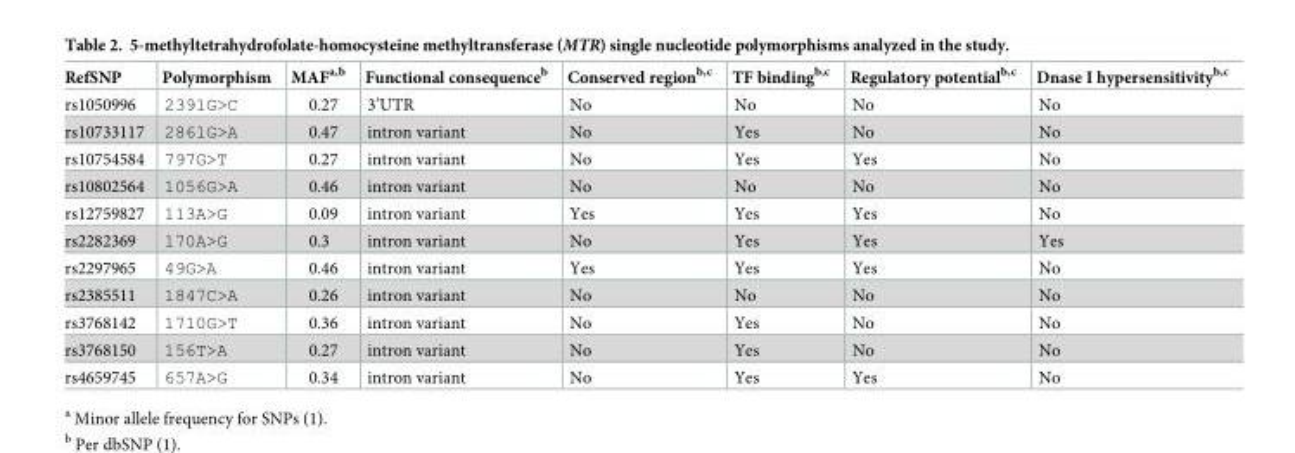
<table><thead><tr><td>RefSNP</td><td>Polymorphism</td><td>MAF<sup>a,b</sup></td><td>Functional consequence<sup>b</sup></td><td>Conserved region<sup>b,c</sup></td><td>TF binding<sup>b,c</sup></td><td>Regulatory potential<sup>b,c</sup></td><td>Dnase I hypersensitivity<sup>b,c</sup></td></tr></thead><tbody><tr><td>rs1050996</td><td>2391G&gt;C</td><td>0.27</td><td>3’UTR</td><td>No</td><td>No</td><td>No</td><td>No</td></tr><tr><td>rs10733117</td><td>2861G&gt;A</td><td>0.47</td><td>intron variant</td><td>No</td><td>Yes</td><td>No</td><td>No</td></tr><tr><td>rs10754584</td><td>797G&gt;T</td><td>0.27</td><td>intron variant</td><td>No</td><td>Yes</td><td>Yes</td><td>No</td></tr><tr><td>rs10802564</td><td>1056G&gt;A</td><td>0.46</td><td>intron variant</td><td>No</td><td>No</td><td>No</td><td>No</td></tr><tr><td>rs12759827</td><td>113A&gt;G</td><td>0.09</td><td>intron variant</td><td>Yes</td><td>Yes</td><td>Yes</td><td>No</td></tr><tr><td>rs2282369</td><td>170A&gt;G</td><td>0.3</td><td>intron variant</td><td>No</td><td>Yes</td><td>Yes</td><td>Yes</td></tr><tr><td>rs2297965</td><td>49G&gt;A</td><td>0.46</td><td>intron variant</td><td>Yes</td><td>Yes</td><td>Yes</td><td>No</td></tr><tr><td>rs2385511</td><td>1847C&gt;A</td><td>0.26</td><td>intron variant</td><td>No</td><td>No</td><td>No</td><td>No</td></tr><tr><td>rs3768142</td><td>1710G&gt;T</td><td>0.36</td><td>intron variant</td><td>No</td><td>Yes</td><td>No</td><td>No</td></tr><tr><td>rs3768150</td><td>156T&gt;A</td><td>0.27</td><td>intron variant</td><td>No</td><td>Yes</td><td>No</td><td>No</td></tr><tr><td>rs4659745</td><td>657A&gt;G</td><td>0.34</td><td>intron variant</td><td>No</td><td>Yes</td><td>Yes</td><td>No</td></tr></tbody></table>